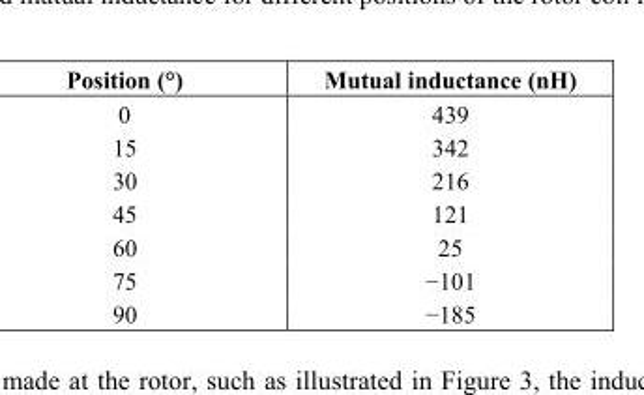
<table><thead><tr><td>Position (°)</td><td>Mutual inductance (nH)</td></tr></thead><tbody><tr><td>0</td><td>439</td></tr><tr><td>15</td><td>342</td></tr><tr><td>30</td><td>216</td></tr><tr><td>45</td><td>121</td></tr><tr><td>60</td><td>25</td></tr><tr><td>75</td><td>−101</td></tr><tr><td>90</td><td>−185</td></tr></tbody></table>